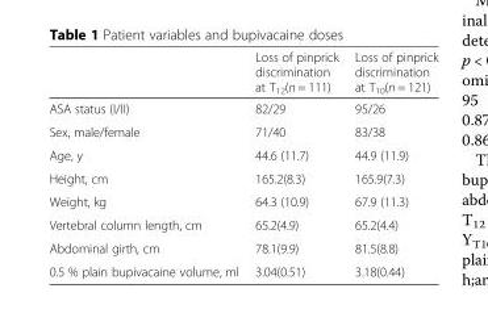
<table><thead><tr><td></td><td>Loss of pinprick discrimination at T<sub>12</sub>(n = 111)</td><td>Loss of pinprick discrimination at T<sub>10</sub>(n = 121)</td></tr></thead><tbody><tr><td>ASA status (I/II)</td><td>82/29</td><td>95/26</td></tr><tr><td>Sex, male/female</td><td>71/40</td><td>83/38</td></tr><tr><td>Age, y</td><td>44.6 (11.7)</td><td>44.9 (11.9)</td></tr><tr><td>Height, cm</td><td>165.2(8.3)</td><td>165.9(7.3)</td></tr><tr><td>Weight, kg</td><td>64.3 (10.9)</td><td>67.9 (11.3)</td></tr><tr><td>Vertebral column length, cm</td><td>65.2(4.9)</td><td>65.2(4.4)</td></tr><tr><td>Abdominal girth, cm</td><td>78.1(9.9)</td><td>81.5(8.8)</td></tr><tr><td>0.5 % plain bupivacaine volume, ml</td><td>3.04(0.51)</td><td>3.18(0.44)</td></tr></tbody></table>